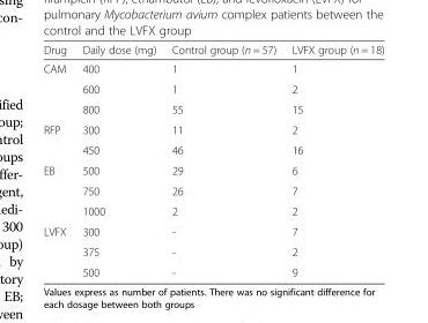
<table><thead><tr><td>Drug</td><td>Daily dose (mg)</td><td>Control group (n = 57)</td><td>LVFX group (n = 18)</td></tr></thead><tbody><tr><td rowspan="3">CAM</td><td>400</td><td>1</td><td>1</td></tr><tr><td>600</td><td>1</td><td>2</td></tr><tr><td>800</td><td>55</td><td>15</td></tr><tr><td rowspan="2">RFP</td><td>300</td><td>11</td><td>2</td></tr><tr><td>450</td><td>46</td><td>16</td></tr><tr><td rowspan="3">EB</td><td>500</td><td>29</td><td>6</td></tr><tr><td>750</td><td>26</td><td>7</td></tr><tr><td>1000</td><td>2</td><td>2</td></tr><tr><td rowspan="3">LVFX</td><td>300</td><td>-</td><td>7</td></tr><tr><td>375</td><td>-</td><td>2</td></tr><tr><td>500</td><td>-</td><td>9</td></tr></tbody></table>